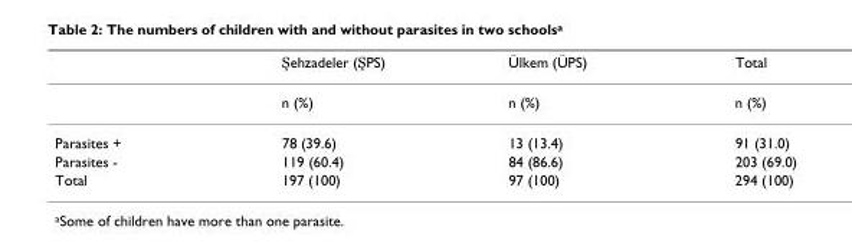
<table><thead><tr><td></td><td>Şehzadeler (ŞPS)</td><td>Ülkem (ÜPS)</td><td>Total</td></tr></thead><tbody><tr><td></td><td>n (%)</td><td>n (%)</td><td>n (%)</td></tr><tr><td>Parasites +</td><td>78 (39.6)</td><td>13 (13.4)</td><td>91 (31.0)</td></tr><tr><td>Parasites -</td><td>119 (60.4)</td><td>84 (86.6)</td><td>203 (69.0)</td></tr><tr><td>Total</td><td>197 (100)</td><td>97 (100)</td><td>294 (100)</td></tr></tbody></table>